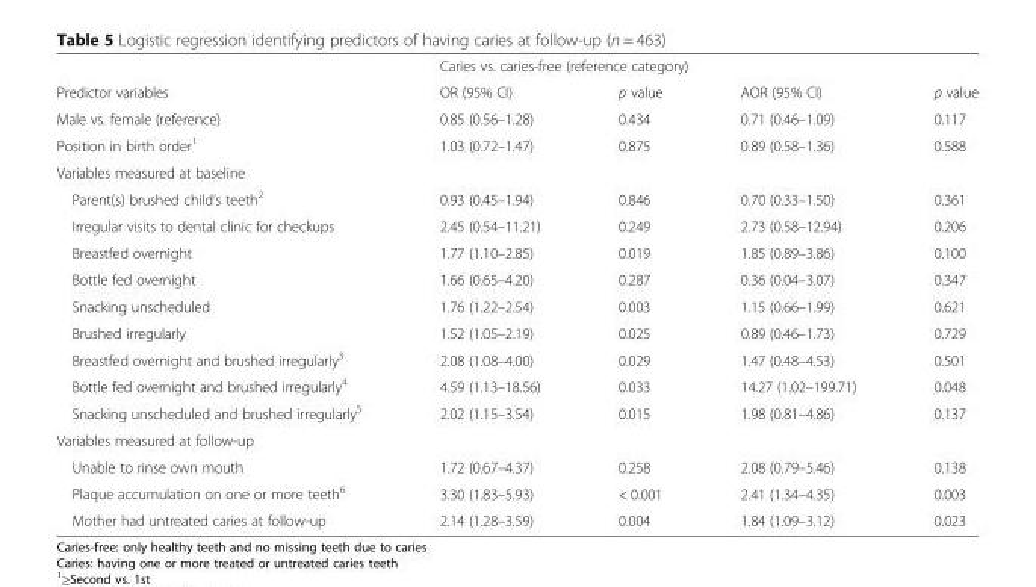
<table><thead><tr><td rowspan="2">Predictor variables</td><td colspan="4">Caries vs. caries-free (reference category)</td></tr><tr><td>OR (95% CI)</td><td>p value</td><td>AOR (95% CI)</td><td>p value</td></tr></thead><tbody><tr><td>Male vs. female (reference)</td><td>0.85 (0.56–1.28)</td><td>0.434</td><td>0.71 (0.46–1.09)</td><td>0.117</td></tr><tr><td>Position in birth order<sup>1</sup></td><td>1.03 (0.72–1.47)</td><td>0.875</td><td>0.89 (0.58–1.36)</td><td>0.588</td></tr><tr><td colspan="5">Variables measured at baseline</td></tr><tr><td>Parent(s) brushed child’s teeth<sup>2</sup></td><td>0.93 (0.45–1.94)</td><td>0.846</td><td>0.70 (0.33–1.50)</td><td>0.361</td></tr><tr><td>Irregular visits to dental clinic for checkups</td><td>2.45 (0.54–11.21)</td><td>0.249</td><td>2.73 (0.58–12.94)</td><td>0.206</td></tr><tr><td>Breastfed overnight</td><td>1.77 (1.10–2.85)</td><td>0.019</td><td>1.85 (0.89–3.86)</td><td>0.100</td></tr><tr><td>Bottle fed overnight</td><td>1.66 (0.65–4.20)</td><td>0.287</td><td>0.36 (0.04–3.07)</td><td>0.347</td></tr><tr><td>Snacking unscheduled</td><td>1.76 (1.22–2.54)</td><td>0.003</td><td>1.15 (0.66–1.99)</td><td>0.621</td></tr><tr><td>Brushed irregularly</td><td>1.52 (1.05–2.19)</td><td>0.025</td><td>0.89 (0.46–1.73)</td><td>0.729</td></tr><tr><td>Breastfed overnight and brushed irregularly<sup>3</sup></td><td>2.08 (1.08–4.00)</td><td>0.029</td><td>1.47 (0.48–4.53)</td><td>0.501</td></tr><tr><td>Bottle fed overnight and brushed irregularly<sup>4</sup></td><td>4.59 (1.13–18.56)</td><td>0.033</td><td>14.27 (1.02–199.71)</td><td>0.048</td></tr><tr><td>Snacking unscheduled and brushed irregularly<sup>5</sup></td><td>2.02 (1.15–3.54)</td><td>0.015</td><td>1.98 (0.81–4.86)</td><td>0.137</td></tr><tr><td colspan="5">Variables measured at follow-up</td></tr><tr><td>Unable to rinse own mouth</td><td>1.72 (0.67–4.37)</td><td>0.258</td><td>2.08 (0.79–5.46)</td><td>0.138</td></tr><tr><td>Plaque accumulation on one or more teeth<sup>6</sup></td><td>3.30 (1.83–5.93)</td><td>&lt; 0.001</td><td>2.41 (1.34–4.35)</td><td>0.003</td></tr><tr><td>Mother had untreated caries at follow-up</td><td>2.14 (1.28–3.59)</td><td>0.004</td><td>1.84 (1.09–3.12)</td><td>0.023</td></tr></tbody></table>